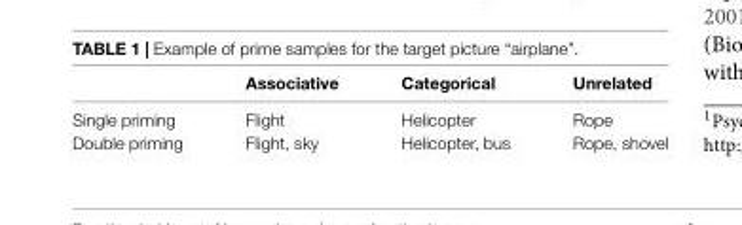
<table><thead><tr><td></td><td>Associative</td><td>Categorical</td><td>Unrelated</td></tr></thead><tbody><tr><td>Single priming</td><td>Flight</td><td>Helicopter</td><td>Rope</td></tr><tr><td>Double priming</td><td>Flight, sky</td><td>Helicopter, bus</td><td>Rope, shovel</td></tr></tbody></table>